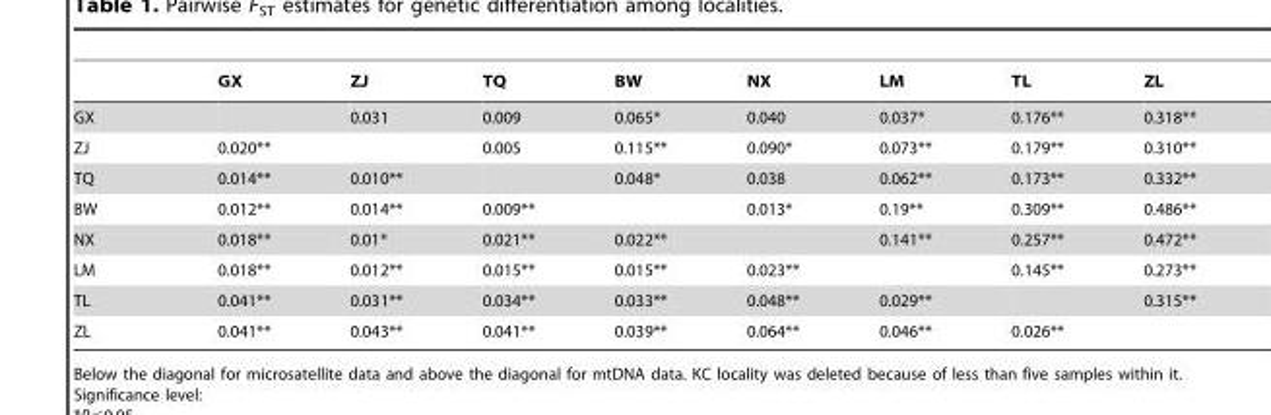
<table><thead><tr><td></td><td>GX</td><td>ZJ</td><td>TQ</td><td>BW</td><td>NX</td><td>LM</td><td>TL</td><td>ZL</td></tr></thead><tbody><tr><td>GX</td><td></td><td>0.031</td><td>0.009</td><td>0.065*</td><td>0.040</td><td>0.037*</td><td>0.176**</td><td>0.318**</td></tr><tr><td>ZJ</td><td>0.020**</td><td></td><td>0.005</td><td>0.115**</td><td>0.090*</td><td>0.073**</td><td>0.179**</td><td>0.310**</td></tr><tr><td>TQ</td><td>0.014**</td><td>0.010**</td><td></td><td>0.048*</td><td>0.038</td><td>0.062**</td><td>0.173**</td><td>0.332**</td></tr><tr><td>BW</td><td>0.012**</td><td>0.014**</td><td>0.009**</td><td></td><td>0.013*</td><td>0.19**</td><td>0.309**</td><td>0.486**</td></tr><tr><td>NX</td><td>0.018**</td><td>0.01*</td><td>0.021**</td><td>0.022**</td><td></td><td>0.141**</td><td>0.257**</td><td>0.472**</td></tr><tr><td>LM</td><td>0.018**</td><td>0.012**</td><td>0.015**</td><td>0.015**</td><td>0.023**</td><td></td><td>0.145**</td><td>0.273**</td></tr><tr><td>TL</td><td>0.041**</td><td>0.031**</td><td>0.034**</td><td>0.033**</td><td>0.048**</td><td>0.029**</td><td></td><td>0.315**</td></tr><tr><td>ZL</td><td>0.041**</td><td>0.043**</td><td>0.041**</td><td>0.039**</td><td>0.064**</td><td>0.046**</td><td>0.026**</td><td></td></tr></tbody></table>